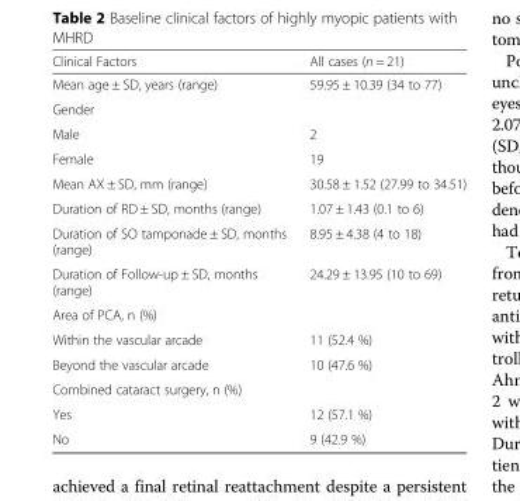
<table><thead><tr><td>Clinical Factors</td><td>All cases (n = 21)</td></tr></thead><tbody><tr><td>Mean age ± SD, years (range)</td><td>59.95 ± 10.39 (34 to 77)</td></tr><tr><td colspan="2">Gender</td></tr><tr><td>Male</td><td>2</td></tr><tr><td>Female</td><td>19</td></tr><tr><td>Mean AX ± SD, mm (range)</td><td>30.58 ± 1.52 (27.99 to 34.51)</td></tr><tr><td>Duration of RD ± SD, months (range)</td><td>1.07 ± 1.43 (0.1 to 6)</td></tr><tr><td>Duration of SO tamponade ± SD, months (range)</td><td>8.95 ± 4.38 (4 to 18)</td></tr><tr><td>Duration of Follow-up ± SD, months (range)</td><td>24.29 ± 13.95 (10 to 69)</td></tr><tr><td colspan="2">Area of PCA, n (%)</td></tr><tr><td>Within the vascular arcade</td><td>11 (52.4 %)</td></tr><tr><td>Beyond the vascular arcade</td><td>10 (47.6 %)</td></tr><tr><td colspan="2">Combined cataract surgery, n (%)</td></tr><tr><td>Yes</td><td>12 (57.1 %)</td></tr><tr><td>No</td><td>9 (42.9 %)</td></tr></tbody></table>